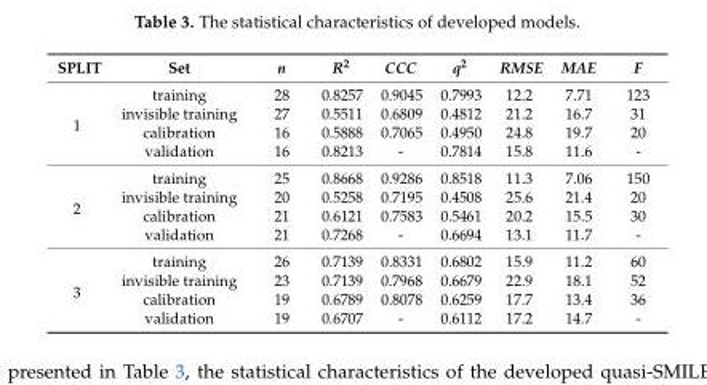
<table><thead><tr><td>SPLIT</td><td>Set</td><td>n</td><td>R2</td><td>CCC</td><td>q2</td><td>RMSE</td><td>MAE</td><td>F</td></tr></thead><tbody><tr><td rowspan="4">1</td><td>training</td><td>28</td><td>0.8257</td><td>0.9045</td><td>0.7993</td><td>12.2</td><td>7.71</td><td>123</td></tr><tr><td>invisible training</td><td>27</td><td>0.5511</td><td>0.6809</td><td>0.4812</td><td>21.2</td><td>16.7</td><td>31</td></tr><tr><td>calibration</td><td>16</td><td>0.5888</td><td>0.7065</td><td>0.4950</td><td>24.8</td><td>19.7</td><td>20</td></tr><tr><td>validation</td><td>16</td><td>0.8213</td><td>-</td><td>0.7814</td><td>15.8</td><td>11.6</td><td>-</td></tr><tr><td rowspan="4">2</td><td>training</td><td>25</td><td>0.8668</td><td>0.9286</td><td>0.8518</td><td>11.3</td><td>7.06</td><td>150</td></tr><tr><td>invisible training</td><td>20</td><td>0.5258</td><td>0.7195</td><td>0.4508</td><td>25.6</td><td>21.4</td><td>20</td></tr><tr><td>calibration</td><td>21</td><td>0.6121</td><td>0.7583</td><td>0.5461</td><td>20.2</td><td>15.5</td><td>30</td></tr><tr><td>validation</td><td>21</td><td>0.7268</td><td>-</td><td>0.6694</td><td>13.1</td><td>11.7</td><td>-</td></tr><tr><td rowspan="4">3</td><td>training</td><td>26</td><td>0.7139</td><td>0.8331</td><td>0.6802</td><td>15.9</td><td>11.2</td><td>60</td></tr><tr><td>invisible training</td><td>23</td><td>0.7139</td><td>0.7968</td><td>0.6679</td><td>22.9</td><td>18.1</td><td>52</td></tr><tr><td>calibration</td><td>19</td><td>0.6789</td><td>0.8078</td><td>0.6259</td><td>17.7</td><td>13.4</td><td>36</td></tr><tr><td>validation</td><td>19</td><td>0.6707</td><td>-</td><td>0.6112</td><td>17.2</td><td>14.7</td><td>-</td></tr></tbody></table>